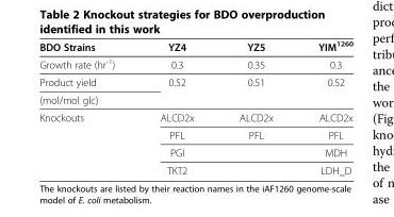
<table><thead><tr><td>BDO Strains</td><td>YZ4</td><td>YZ5</td><td>YIM<sup>1260</sup></td></tr></thead><tbody><tr><td>Growth rate (hr<sup>-1</sup>)</td><td>0.3</td><td>0.35</td><td>0.3</td></tr><tr><td>Product yield</td><td>0.52</td><td>0.51</td><td>0.52</td></tr><tr><td colspan="4">(mol/mol glc)</td></tr><tr><td rowspan="4">Knockouts</td><td>ALCD2x</td><td>ALCD2x</td><td>ALCD2x</td></tr><tr><td>PFL</td><td>PFL</td><td>PFL</td></tr><tr><td>PGI</td><td></td><td>MDH</td></tr><tr><td>TKT2</td><td></td><td>LDH_D</td></tr></tbody></table>